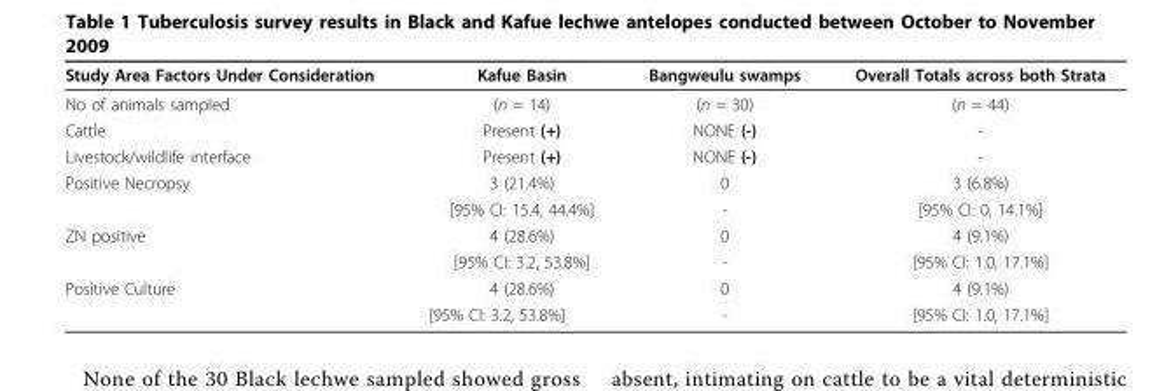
<table><thead><tr><td>Study Area Factors Under Consideration</td><td>Kafue Basin</td><td>Bangweulu swamps</td><td>Overall Totals across both Strata</td></tr></thead><tbody><tr><td>No of animals sampled</td><td>(n = 14)</td><td>(n = 30)</td><td>(n = 44)</td></tr><tr><td>Cattle</td><td>Present (+)</td><td>NONE (-)</td><td>-</td></tr><tr><td>Livestock/wildlife interface</td><td>Present (+)</td><td>NONE (-)</td><td>-</td></tr><tr><td rowspan="2">Positive Necropsy</td><td>3 (21.4%)</td><td>0</td><td>3 (6.8%)</td></tr><tr><td>[95% CI: 15.4, 44.4%]</td><td>-</td><td>[95% CI: 0, 14.1%]</td></tr><tr><td rowspan="2">ZN positive</td><td>4 (28.6%)</td><td>0</td><td>4 (9.1%)</td></tr><tr><td>[95% CI: 3.2, 53.8%]</td><td>-</td><td>[95% CI: 1.0, 17.1%]</td></tr><tr><td rowspan="2">Positive Culture</td><td>4 (28.6%)</td><td>0</td><td>4 (9.1%)</td></tr><tr><td>[95% CI: 3.2, 53.8%]</td><td>-</td><td>[95% CI: 1.0, 17.1%]</td></tr></tbody></table>